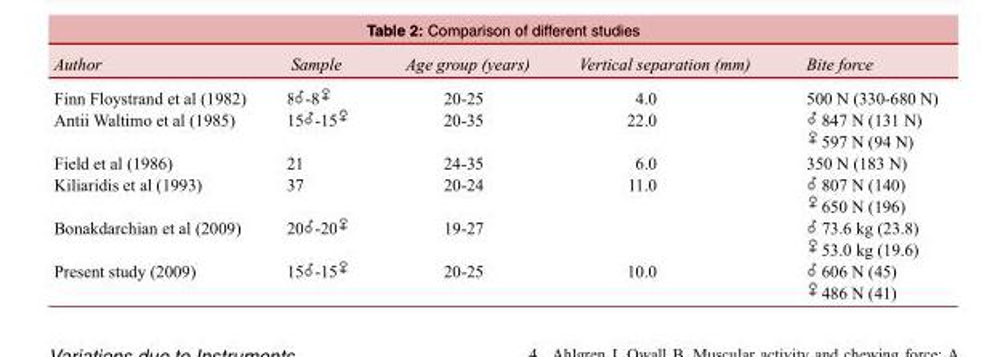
<table><tbody><tr><td>Author</td><td>Sample</td><td>Age group (years)</td><td>Vertical separation (mm)</td><td>Bite force</td></tr><tr><td>Finn Floystrand et al (1982)</td><td>8 -8</td><td>20-25</td><td>4.0</td><td>500 N (330-680 N)</td></tr><tr><td rowspan="2">Antii Waltimo et al (1985)</td><td>15 -15</td><td>20-35</td><td>22.0</td><td>847 N (131 N)</td></tr><tr><td></td><td></td><td></td><td>597 N (94 N)</td></tr><tr><td>Field et al (1986)</td><td>21</td><td>24-35</td><td>6.0</td><td>350 N (183 N)</td></tr><tr><td rowspan="2">Kiliaridis et al (1993)</td><td>37</td><td>20-24</td><td>11.0</td><td>807 N (140)</td></tr><tr><td></td><td></td><td></td><td>650 N (196)</td></tr><tr><td rowspan="2">Bonakdarchian et al (2009)</td><td>20 -20</td><td>19-27</td><td></td><td>73.6 kg (23.8)</td></tr><tr><td></td><td></td><td></td><td>53.0 kg (19.6)</td></tr><tr><td rowspan="2">Present study (2009)</td><td>15 -15</td><td>20-25</td><td>10.0</td><td>606 N (45)</td></tr><tr><td></td><td></td><td></td><td>486 N (41)</td></tr></tbody></table>